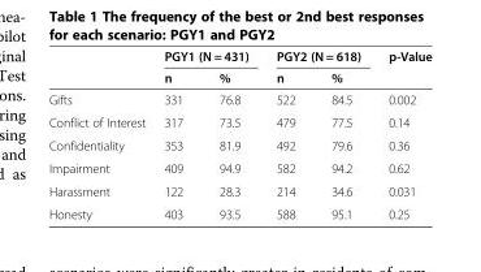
<table><thead><tr><td rowspan="2"></td><td colspan="2">PGY1 (N = 431)</td><td colspan="2">PGY2 (N = 618)</td><td rowspan="2">p-Value</td></tr><tr><td>n</td><td>%</td><td>n</td><td>%</td></tr></thead><tbody><tr><td>Gifts</td><td>331</td><td>76.8</td><td>522</td><td>84.5</td><td>0.002</td></tr><tr><td>Conflict of Interest</td><td>317</td><td>73.5</td><td>479</td><td>77.5</td><td>0.14</td></tr><tr><td>Confidentiality</td><td>353</td><td>81.9</td><td>492</td><td>79.6</td><td>0.36</td></tr><tr><td>Impairment</td><td>409</td><td>94.9</td><td>582</td><td>94.2</td><td>0.62</td></tr><tr><td>Harassment</td><td>122</td><td>28.3</td><td>214</td><td>34.6</td><td>0.031</td></tr><tr><td>Honesty</td><td>403</td><td>93.5</td><td>588</td><td>95.1</td><td>0.25</td></tr></tbody></table>